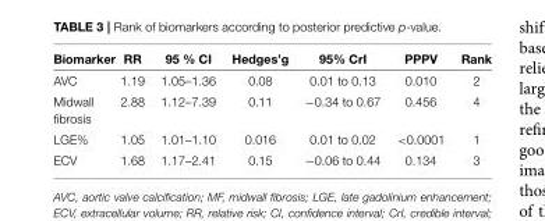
<table><thead><tr><td>Biomarker</td><td>RR</td><td>95 % CI</td><td>Hedges’g</td><td>95% CrI</td><td>PPPV</td><td>Rank</td></tr></thead><tbody><tr><td>AVC</td><td>1.19</td><td>1.05–1.36</td><td>0.08</td><td>0.01 to 0.13</td><td>0.010</td><td>2</td></tr><tr><td>Midwall fibrosis</td><td>2.88</td><td>1.12–7.39</td><td>0.11</td><td>−0.34 to 0.67</td><td>0.456</td><td>4</td></tr><tr><td>LGE%</td><td>1.05</td><td>1.01–1.10</td><td>0.016</td><td>0.01 to 0.02</td><td>&lt;0.0001</td><td>1</td></tr><tr><td>ECV</td><td>1.68</td><td>1.17–2.41</td><td>0.15</td><td>−0.06 to 0.44</td><td>0.134</td><td>3</td></tr></tbody></table>